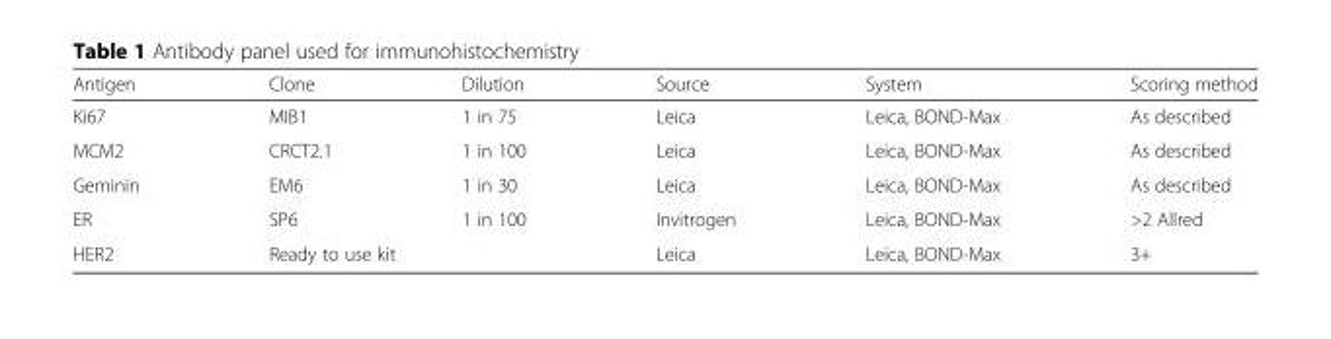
<table><thead><tr><td>Antigen</td><td>Clone</td><td>Dilution</td><td>Source</td><td>System</td><td>Scoring method</td></tr></thead><tbody><tr><td>Ki67</td><td>MIB1</td><td>1 in 75</td><td>Leica</td><td>Leica, BOND-Max</td><td>As described</td></tr><tr><td>MCM2</td><td>CRCT2.1</td><td>1 in 100</td><td>Leica</td><td>Leica, BOND-Max</td><td>As described</td></tr><tr><td>Geminin</td><td>EM6</td><td>1 in 30</td><td>Leica</td><td>Leica, BOND-Max</td><td>As described</td></tr><tr><td>ER</td><td>SP6</td><td>1 in 100</td><td>Invitrogen</td><td>Leica, BOND-Max</td><td>&gt;2 Allred</td></tr><tr><td>HER2</td><td colspan="2">Ready to use kit</td><td>Leica</td><td>Leica, BOND-Max</td><td>3+</td></tr></tbody></table>